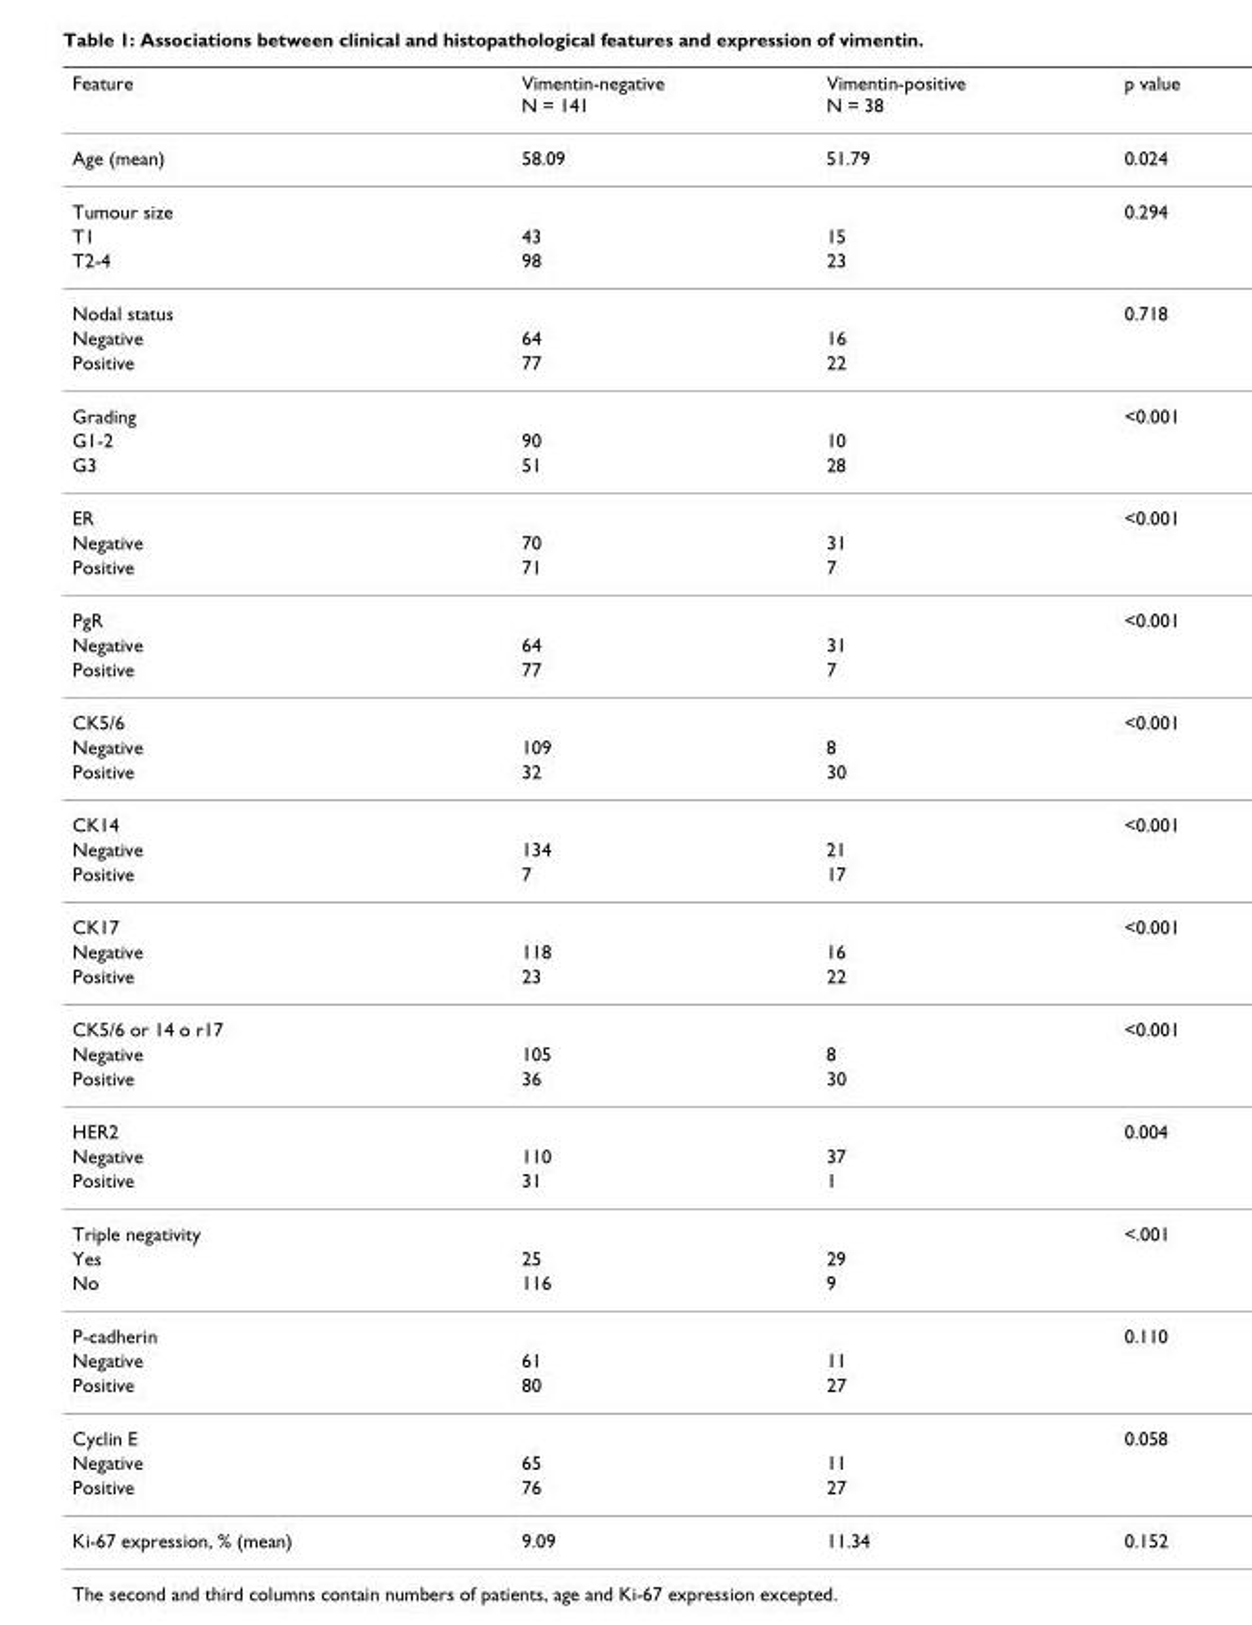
<table><thead><tr><td>Feature</td><td>Vimentin-negative N = 141</td><td>Vimentin-positive N = 38</td><td>p value</td></tr></thead><tbody><tr><td>Age (mean)</td><td>58.09</td><td>51.79</td><td>0.024</td></tr><tr><td>Tumour size</td><td></td><td></td><td>0.294</td></tr><tr><td>T1</td><td>43</td><td>15</td><td></td></tr><tr><td>T2-4</td><td>98</td><td>23</td><td></td></tr><tr><td>Nodal status</td><td></td><td></td><td>0.718</td></tr><tr><td>Negative</td><td>64</td><td>16</td><td></td></tr><tr><td>Positive</td><td>77</td><td>22</td><td></td></tr><tr><td>Grading</td><td></td><td></td><td>&lt;0.001</td></tr><tr><td>G1-2</td><td>90</td><td>10</td><td></td></tr><tr><td>G3</td><td>51</td><td>28</td><td></td></tr><tr><td>ER</td><td></td><td></td><td>&lt;0.001</td></tr><tr><td>Negative</td><td>70</td><td>31</td><td></td></tr><tr><td>Positive</td><td>71</td><td>7</td><td></td></tr><tr><td>PgR</td><td></td><td></td><td>&lt;0.001</td></tr><tr><td>Negative</td><td>64</td><td>31</td><td></td></tr><tr><td>Positive</td><td>77</td><td>7</td><td></td></tr><tr><td>CK5/6</td><td></td><td></td><td>&lt;0.001</td></tr><tr><td>Negative</td><td>109</td><td>8</td><td></td></tr><tr><td>Positive</td><td>32</td><td>30</td><td></td></tr><tr><td>CK14</td><td></td><td></td><td>&lt;0.001</td></tr><tr><td>Negative</td><td>134</td><td>21</td><td></td></tr><tr><td>Positive</td><td>7</td><td>17</td><td></td></tr><tr><td>CK17</td><td></td><td></td><td>&lt;0.001</td></tr><tr><td>Negative</td><td>118</td><td>16</td><td></td></tr><tr><td>Positive</td><td>23</td><td>22</td><td></td></tr><tr><td>CK5/6 or 14 o r17</td><td></td><td></td><td>&lt;0.001</td></tr><tr><td>Negative</td><td>105</td><td>8</td><td></td></tr><tr><td>Positive</td><td>36</td><td>30</td><td></td></tr><tr><td>HER2</td><td></td><td></td><td>0.004</td></tr><tr><td>Negative</td><td>110</td><td>37</td><td></td></tr><tr><td>Positive</td><td>31</td><td>1</td><td></td></tr><tr><td>Triple negativity</td><td></td><td></td><td>&lt;.001</td></tr><tr><td>Yes</td><td>25</td><td>29</td><td></td></tr><tr><td>No</td><td>116</td><td>9</td><td></td></tr><tr><td>P-cadherin</td><td></td><td></td><td>0.110</td></tr><tr><td>Negative</td><td>61</td><td>11</td><td></td></tr><tr><td>Positive</td><td>80</td><td>27</td><td></td></tr><tr><td>Cyclin E</td><td></td><td></td><td>0.058</td></tr><tr><td>Negative</td><td>65</td><td>11</td><td></td></tr><tr><td>Positive</td><td>76</td><td>27</td><td></td></tr><tr><td>Ki-67 expression, % (mean)</td><td>9.09</td><td>11.34</td><td>0.152</td></tr></tbody></table>